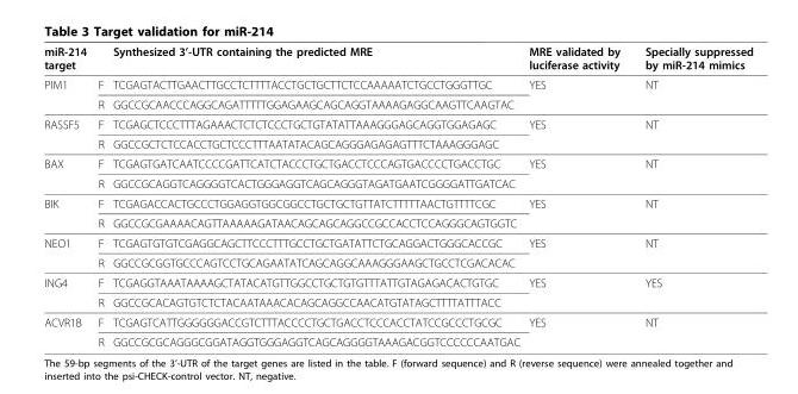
<table><thead><tr><td>miR-214 target</td><td></td><td>Synthesized 3’-UTR containing the predicted MRE</td><td>MRE validated by luciferase activity</td><td>Specially suppressed by miR-214 mimics</td></tr></thead><tbody><tr><td rowspan="2">PIM1</td><td>F</td><td>TCGAGTACTTGAACTTGCCTCTTTTACCTGCTGCTTCTCCAAAAATCTGCCTGGGTTGC</td><td>YES</td><td>NT</td></tr><tr><td>R</td><td>GGCCGCAACCCAGGCAGATTTTTGGAGAAGCAGCAGGTAAAAGAGGCAAGTTCAAGTAC</td><td></td><td></td></tr><tr><td rowspan="2">RASSF5</td><td>F</td><td>TCGAGCTCCCTTTAGAAACTCTCTCCCTGCTGTATATTAAAGGGAGCAGGTGGAGAGC</td><td>YES</td><td>NT</td></tr><tr><td>R</td><td>GGCCGCTCTCCACCTGCTCCCTTTAATATACAGCAGGGAGAGAGTTTCTAAAGGGAGC</td><td></td><td></td></tr><tr><td rowspan="2">BAX</td><td>F</td><td>TCGAGTGATCAATCCCCGATTCATCTACCCTGCTGACCTCCCAGTGACCCCTGACCTGC</td><td>YES</td><td>NT</td></tr><tr><td>R</td><td>GGCCGCAGGTCAGGGGTCACTGGGAGGTCAGCAGGGTAGATGAATCGGGGATTGATCAC</td><td></td><td></td></tr><tr><td rowspan="2">BIK</td><td>F</td><td>TCGAGACCACTGCCCTGGAGGTGGCGGCCTGCTGCTGTTATCTTTTTAACTGTTTTCGC</td><td>YES</td><td>NT</td></tr><tr><td>R</td><td>GGCCGCGAAAACAGTTAAAAAGATAACAGCAGCAGGCCGCCACCTCCAGGGCAGTGGTC</td><td></td><td></td></tr><tr><td rowspan="2">NEO1</td><td>F</td><td>TCGAGTGTGTCGAGGCAGCTTCCCTTTGCCTGCTGATATTCTGCAGGACTGGGCACCGC</td><td>YES</td><td>NT</td></tr><tr><td>R</td><td>GGCCGCGGTGCCCAGTCCTGCAGAATATCAGCAGGCAAAGGGAAGCTGCCTCGACACAC</td><td></td><td></td></tr><tr><td rowspan="2">ING4</td><td>F</td><td>TCGAGGTAAATAAAAGCTATACATGTTGGCCTGCTGTGTTTATTGTAGAGACACTGTGC</td><td>YES</td><td>YES</td></tr><tr><td>R</td><td>GGCCGCACAGTGTCTCTACAATAAACACAGCAGGCCAACATGTATAGCTTTTATTTACC</td><td></td><td></td></tr><tr><td rowspan="2">ACVR1B</td><td>F</td><td>TCGAGTCATTGGGGGGACCGTCTTTACCCCTGCTGACCTCCCACCTATCCGCCCTGCGC</td><td>YES</td><td>NT</td></tr><tr><td>R</td><td>GGCCGCGCAGGGCGGATAGGTGGGAGGTCAGCAGGGGTAAAGACGGTCCCCCCAATGAC</td><td></td><td></td></tr></tbody></table>